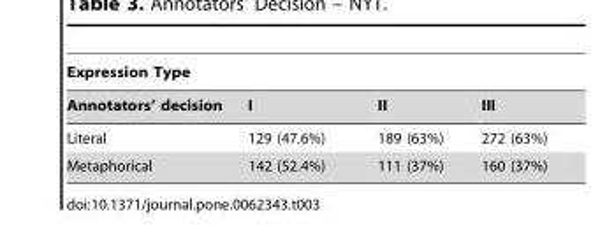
<table><thead><tr><td colspan="4">Expression Type</td></tr><tr><td>Annotators’ decision</td><td>I</td><td>II</td><td>III</td></tr></thead><tbody><tr><td>Literal</td><td>129 (47.6%)</td><td>189 (63%)</td><td>272 (63%)</td></tr><tr><td>Metaphorical</td><td>142 (52.4%)</td><td>111 (37%)</td><td>160 (37%)</td></tr></tbody></table>